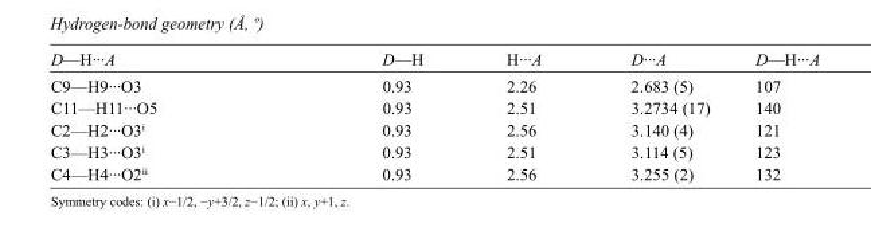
<table><tbody><tr><td>D—H···A</td><td>D—H</td><td>H···A</td><td>D···A</td><td>D—H···A</td></tr><tr><td>C9—H9···O3</td><td>0.93</td><td>2.26</td><td>2.683 (5)</td><td>107</td></tr><tr><td>C11—H11···O5</td><td>0.93</td><td>2.51</td><td>3.2734 (17)</td><td>140</td></tr><tr><td>C2—H2···O3<sup>i</sup></td><td>0.93</td><td>2.56</td><td>3.140 (4)</td><td>121</td></tr><tr><td>C3—H3···O3<sup>i</sup></td><td>0.93</td><td>2.51</td><td>3.114 (5)</td><td>123</td></tr><tr><td>C4—H4···O2<sup>ii</sup></td><td>0.93</td><td>2.56</td><td>3.255 (2)</td><td>132</td></tr></tbody></table>